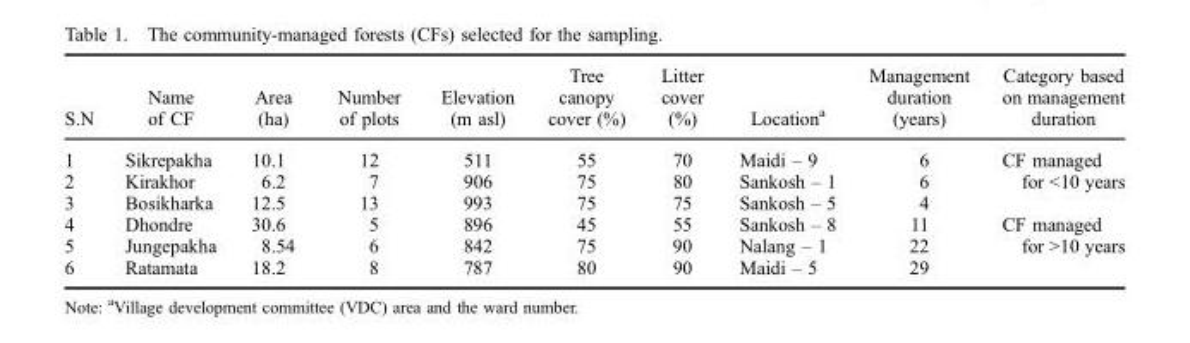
<table><thead><tr><td>S.N</td><td>Name of CF</td><td>Area (ha)</td><td>Number of plots</td><td>Elevation (m asl)</td><td>Tree canopy cover (%)</td><td>Litter cover (%)</td><td>Location<sup>a</sup></td><td>Management duration (years)</td><td>Category based on management duration</td></tr></thead><tbody><tr><td>1</td><td>Sikrepakha</td><td>10.1</td><td>12</td><td>511</td><td>55</td><td>70</td><td>Maidi – 9</td><td>6</td><td rowspan="3">CF managed for &lt;10 years</td></tr><tr><td>2</td><td>Kirakhor</td><td>6.2</td><td>7</td><td>906</td><td>75</td><td>80</td><td>Sankosh – 1</td><td>6</td></tr><tr><td>3</td><td>Bosikharka</td><td>12.5</td><td>13</td><td>993</td><td>75</td><td>75</td><td>Sankosh – 5</td><td>4</td></tr><tr><td>4</td><td>Dhondre</td><td>30.6</td><td>5</td><td>896</td><td>45</td><td>55</td><td>Sankosh – 8</td><td>11</td><td rowspan="3">CF managed for &gt;10 years</td></tr><tr><td>5</td><td>Jungepakha</td><td>8.54</td><td>6</td><td>842</td><td>75</td><td>90</td><td>Nalang – 1</td><td>22</td></tr><tr><td>6</td><td>Ratamata</td><td>18.2</td><td>8</td><td>787</td><td>80</td><td>90</td><td>Maidi – 5</td><td>29</td></tr></tbody></table>